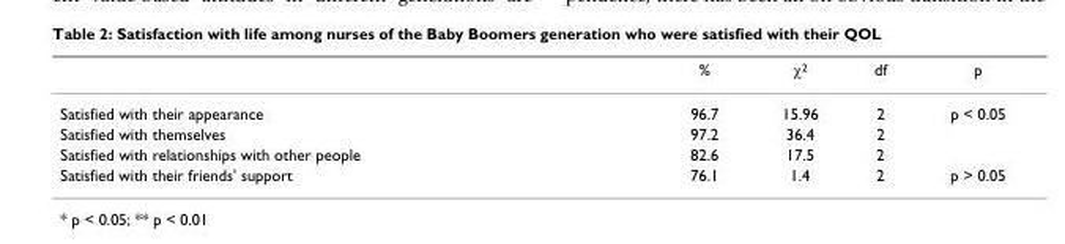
<table><thead><tr><td></td><td>%</td><td>χ<sup>2</sup></td><td>df</td><td>p</td></tr></thead><tbody><tr><td>Satisfied with their appearance</td><td>96.7</td><td>15.96</td><td>2</td><td>p &lt; 0.05</td></tr><tr><td>Satisfied with themselves</td><td>97.2</td><td>36.4</td><td>2</td><td></td></tr><tr><td>Satisfied with relationships with other people</td><td>82.6</td><td>17.5</td><td>2</td><td></td></tr><tr><td>Satisfied with their friends&#x27; support</td><td>76.1</td><td>1.4</td><td>2</td><td>p &gt; 0.05</td></tr></tbody></table>